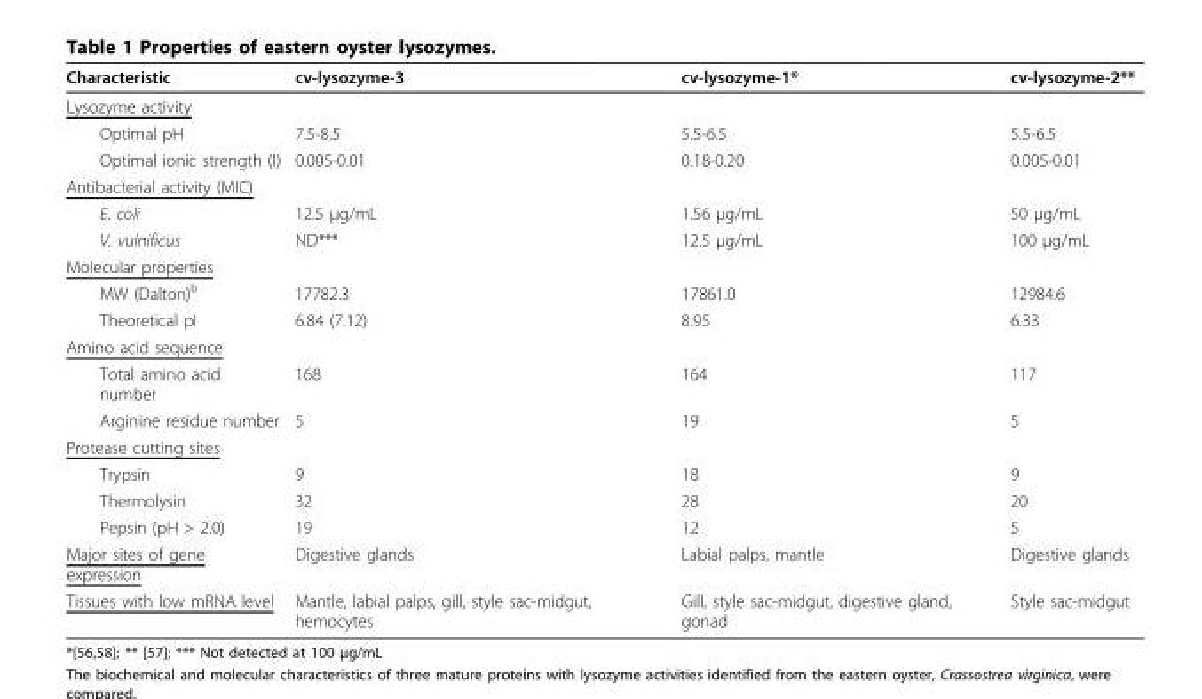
<table><thead><tr><td>Characteristic</td><td>cv-lysozyme-3</td><td>cv-lysozyme-1*</td><td>cv-lysozyme-2**</td></tr></thead><tbody><tr><td colspan="4">Lysozyme activity</td></tr><tr><td>Optimal pH</td><td>7.5-8.5</td><td>5.5-6.5</td><td>5.5-6.5</td></tr><tr><td>Optimal ionic strength (I)</td><td>0.005-0.01</td><td>0.18-0.20</td><td>0.005-0.01</td></tr><tr><td colspan="4">Antibacterial activity (MIC)</td></tr><tr><td>E. coli</td><td>12.5 μg/mL</td><td>1.56 μg/mL</td><td>50 μg/mL</td></tr><tr><td>V. vulnificus</td><td>ND***</td><td>12.5 μg/mL</td><td>100 μg/mL</td></tr><tr><td colspan="4">Molecular properties</td></tr><tr><td>MW (Dalton)<sup>b</sup></td><td>17782.3</td><td>17861.0</td><td>12984.6</td></tr><tr><td>Theoretical pI</td><td>6.84 (7.12)</td><td>8.95</td><td>6.33</td></tr><tr><td colspan="4">Amino acid sequence</td></tr><tr><td>Total amino acid number</td><td>168</td><td>164</td><td>117</td></tr><tr><td>Arginine residue number</td><td>5</td><td>19</td><td>5</td></tr><tr><td colspan="4">Protease cutting sites</td></tr><tr><td>Trypsin</td><td>9</td><td>18</td><td>9</td></tr><tr><td>Thermolysin</td><td>32</td><td>28</td><td>20</td></tr><tr><td>Pepsin (pH &gt; 2.0)</td><td>19</td><td>12</td><td>5</td></tr><tr><td>Major sites of gene expression</td><td>Digestive glands</td><td>Labial palps, mantle</td><td>Digestive glands</td></tr><tr><td>Tissues with low mRNA level</td><td>Mantle, labial palps, gill, style sac-midgut, hemocytes</td><td>Gill, style sac-midgut, digestive gland, gonad</td><td>Style sac-midgut</td></tr></tbody></table>